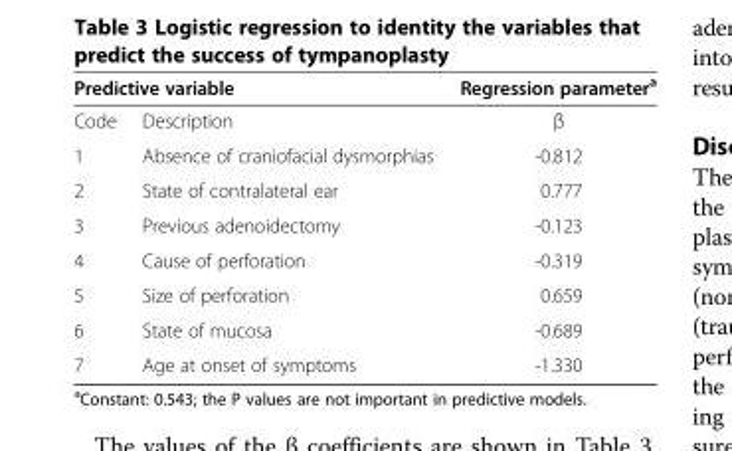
<table><thead><tr><td colspan="2">Predictive variable</td><td rowspan="2">Regression parameter<sup>a</sup> β</td></tr><tr><td>Code</td><td>Description</td></tr></thead><tbody><tr><td>1</td><td>Absence of craniofacial dysmorphias</td><td>-0.812</td></tr><tr><td>2</td><td>State of contralateral ear</td><td>0.777</td></tr><tr><td>3</td><td>Previous adenoidectomy</td><td>-0.123</td></tr><tr><td>4</td><td>Cause of perforation</td><td>-0.319</td></tr><tr><td>5</td><td>Size of perforation</td><td>0.659</td></tr><tr><td>6</td><td>State of mucosa</td><td>-0.689</td></tr><tr><td>7</td><td>Age at onset of symptoms</td><td>-1.330</td></tr></tbody></table>